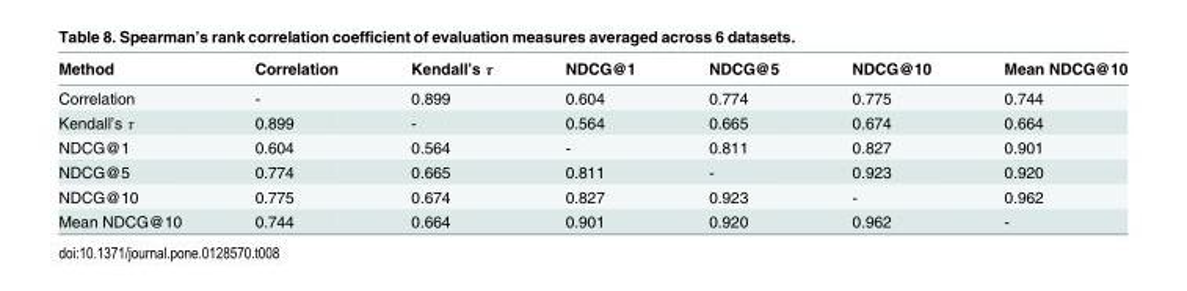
<table><thead><tr><td>Method</td><td>Correlation</td><td>Kendall’s τ</td><td>NDCG@1</td><td>NDCG@5</td><td>NDCG@10</td><td>Mean NDCG@10</td></tr></thead><tbody><tr><td>Correlation</td><td>-</td><td>0.899</td><td>0.604</td><td>0.774</td><td>0.775</td><td>0.744</td></tr><tr><td>Kendall’s τ</td><td>0.899</td><td>-</td><td>0.564</td><td>0.665</td><td>0.674</td><td>0.664</td></tr><tr><td>NDCG@1</td><td>0.604</td><td>0.564</td><td>-</td><td>0.811</td><td>0.827</td><td>0.901</td></tr><tr><td>NDCG@5</td><td>0.774</td><td>0.665</td><td>0.811</td><td>-</td><td>0.923</td><td>0.920</td></tr><tr><td>NDCG@10</td><td>0.775</td><td>0.674</td><td>0.827</td><td>0.923</td><td>-</td><td>0.962</td></tr><tr><td>Mean NDCG@10</td><td>0.744</td><td>0.664</td><td>0.901</td><td>0.920</td><td>0.962</td><td>-</td></tr></tbody></table>